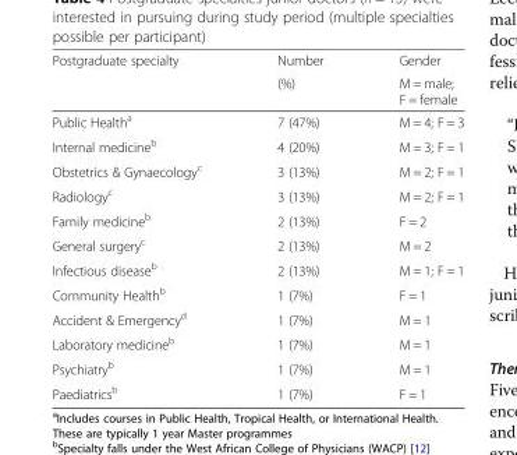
<table><thead><tr><td rowspan="2">Postgraduate specialty</td><td rowspan="2">Number (%)</td><td rowspan="2">Gender M = male; F = female</td></tr><tr></tr></thead><tbody><tr><td>Public Health<sup>a</sup></td><td>7 (47%)</td><td>M = 4; F = 3</td></tr><tr><td>Internal medicine<sup>b</sup></td><td>4 (20%)</td><td>M = 3; F = 1</td></tr><tr><td>Obstetrics &amp; Gynaecology<sup>c</sup></td><td>3 (13%)</td><td>M = 2; F = 1</td></tr><tr><td>Radiology<sup>c</sup></td><td>3 (13%)</td><td>M = 2; F = 1</td></tr><tr><td>Family medicine<sup>b</sup></td><td>2 (13%)</td><td>F = 2</td></tr><tr><td>General surgery<sup>c</sup></td><td>2 (13%)</td><td>M = 2</td></tr><tr><td>Infectious disease<sup>b</sup></td><td>2 (13%)</td><td>M = 1; F = 1</td></tr><tr><td>Community Health<sup>b</sup></td><td>1 (7%)</td><td>F = 1</td></tr><tr><td>Accident &amp; Emergency<sup>d</sup></td><td>1 (7%)</td><td>M = 1</td></tr><tr><td>Laboratory medicine<sup>b</sup></td><td>1 (7%)</td><td>M = 1</td></tr><tr><td>Psychiatry<sup>b</sup></td><td>1 (7%)</td><td>M = 1</td></tr><tr><td>Paediatrics<sup>b</sup></td><td>1 (7%)</td><td>F = 1</td></tr></tbody></table>